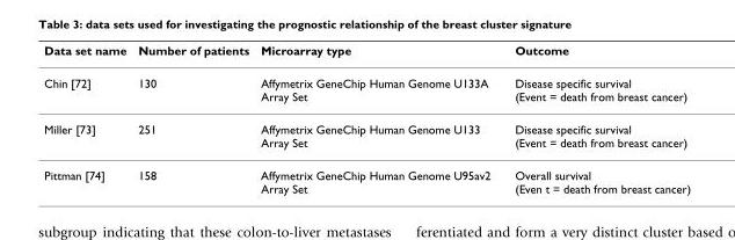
<table><thead><tr><td>Data set name</td><td>Number of patients</td><td>Microarray type</td><td>Outcome</td></tr></thead><tbody><tr><td>Chin [72]</td><td>130</td><td>Affymetrix GeneChip Human Genome U133A Array Set</td><td>Disease specific survival (Event = death from breast cancer)</td></tr><tr><td>Miller [73]</td><td>251</td><td>Affymetrix GeneChip Human Genome U133 Array Set</td><td>Disease specific survival (Event = death from breast cancer)</td></tr><tr><td>Pittman [74]</td><td>158</td><td>Affymetrix GeneChip Human Genome U95av2 Array Set</td><td>Overall survival (Even t = death from breast cancer)</td></tr></tbody></table>